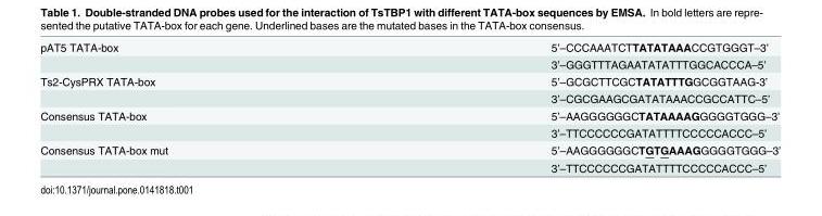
<table><tbody><tr><td rowspan="2">pAT5 TATA-box</td><td>5’–CCCAAATCTTATATAAACCGTGGGT–3’</td></tr><tr><td>3’–GGGTTTAGAATATATTTGGCACCCA–5’</td></tr><tr><td rowspan="2">Ts2-CysPRX TATA-box</td><td>5’–GCGCTTCGCTATATTTGGCGGTAAG-3’</td></tr><tr><td>3’–CGCGAAGCGATATAAACCGCCATTC–5’</td></tr><tr><td rowspan="2">Consensus TATA-box</td><td>5’–AAGGGGGGCTATAAAAGGGGGTGGG–3’</td></tr><tr><td>3’–TTCCCCCCGATATTTTCCCCCACCC–5’</td></tr><tr><td rowspan="2">Consensus TATA-box mut</td><td>5’–AAGGGGGGCTGTGAAAGGGGGTGGG–3’</td></tr><tr><td>3’–TTCCCCCCGATATTTTCCCCCACCC–5’</td></tr></tbody></table>